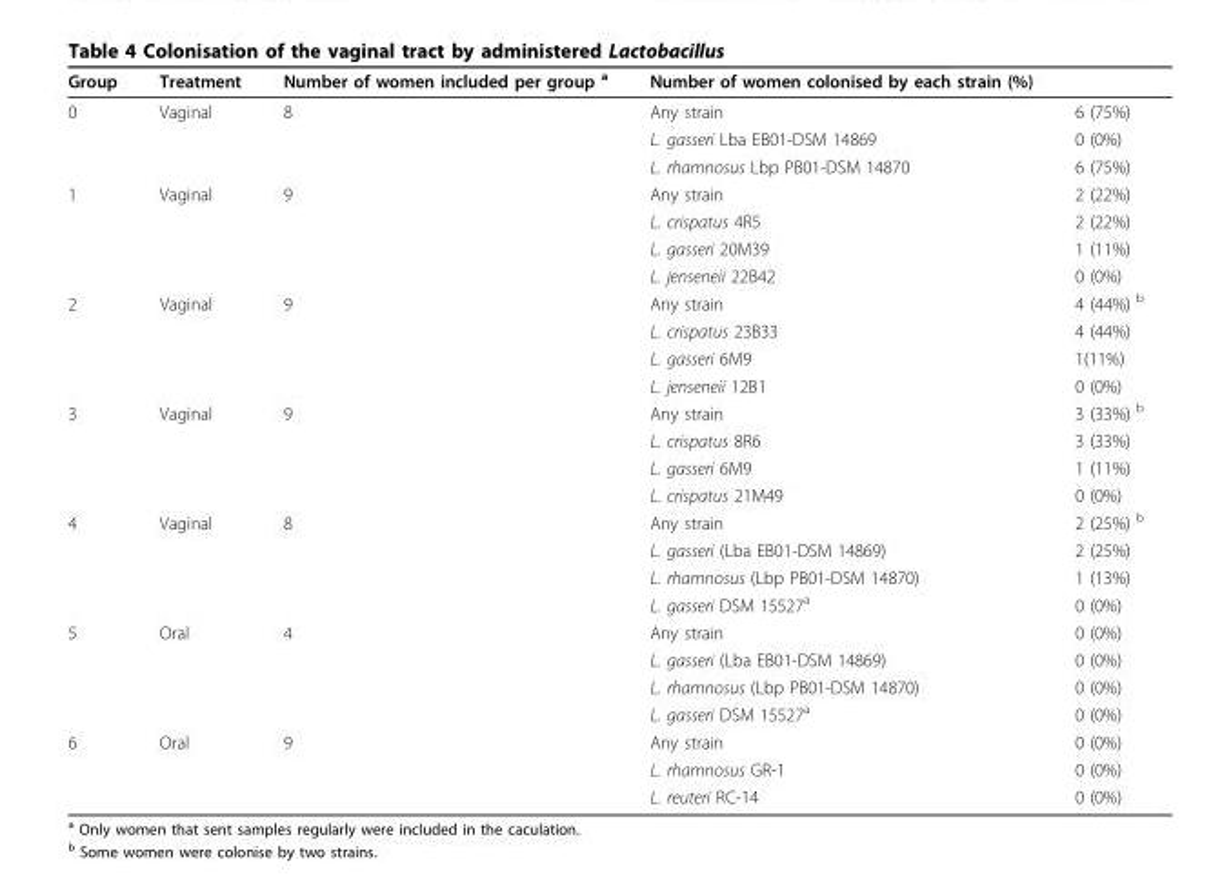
<table><thead><tr><td>Group</td><td>Treatment</td><td>Number of women included per group <sup>a</sup></td><td>Number of women colonised by each strain (%)</td><td></td></tr></thead><tbody><tr><td rowspan="3">0</td><td>Vaginal</td><td>8</td><td>Any strain</td><td>6 (75%)</td></tr><tr><td></td><td></td><td>L. gasseri Lba EB01-DSM 14869</td><td>0 (0%)</td></tr><tr><td></td><td></td><td>L. rhamnosus Lbp PB01-DSM 14870</td><td>6 (75%)</td></tr><tr><td rowspan="4">1</td><td>Vaginal</td><td>9</td><td>Any strain</td><td>2 (22%)</td></tr><tr><td></td><td></td><td>L. crispatus 4R5</td><td>2 (22%)</td></tr><tr><td></td><td></td><td>L. gasseri 20M39</td><td>1 (11%)</td></tr><tr><td></td><td></td><td>L. jenseneii 22B42</td><td>0 (0%)</td></tr><tr><td rowspan="4">2</td><td>Vaginal</td><td>9</td><td>Any strain</td><td>4 (44%) <sup>b</sup></td></tr><tr><td></td><td></td><td>L. crispatus 23B33</td><td>4 (44%)</td></tr><tr><td></td><td></td><td>L. gasseri 6M9</td><td>1(11%)</td></tr><tr><td></td><td></td><td>L. jenseneii 12B1</td><td>0 (0%)</td></tr><tr><td rowspan="4">3</td><td>Vaginal</td><td>9</td><td>Any strain</td><td>3 (33%) <sup>b</sup></td></tr><tr><td></td><td></td><td>L. crispatus 8R6</td><td>3 (33%)</td></tr><tr><td></td><td></td><td>L. gasseri 6M9</td><td>1 (11%)</td></tr><tr><td></td><td></td><td>L. crispatus 21M49</td><td>0 (0%)</td></tr><tr><td rowspan="4">4</td><td>Vaginal</td><td>8</td><td>Any strain</td><td>2 (25%) <sup>b</sup></td></tr><tr><td></td><td></td><td>L. gasseri (Lba EB01-DSM 14869)</td><td>2 (25%)</td></tr><tr><td></td><td></td><td>L. rhamnosus (Lbp PB01-DSM 14870)</td><td>1 (13%)</td></tr><tr><td></td><td></td><td>L. gasseri DSM 15527<sup>a</sup></td><td>0 (0%)</td></tr><tr><td rowspan="4">5</td><td>Oral</td><td>4</td><td>Any strain</td><td>0 (0%)</td></tr><tr><td></td><td></td><td>L. gasseri (Lba EB01-DSM 14869)</td><td>0 (0%)</td></tr><tr><td></td><td></td><td>L. rhamnosus (Lbp PB01-DSM 14870)</td><td>0 (0%)</td></tr><tr><td></td><td></td><td>L. gasseri DSM 15527<sup>a</sup></td><td>0 (0%)</td></tr><tr><td rowspan="3">6</td><td>Oral</td><td>9</td><td>Any strain</td><td>0 (0%)</td></tr><tr><td></td><td></td><td>L. rhamnosus GR-1</td><td>0 (0%)</td></tr><tr><td></td><td></td><td>L. reuteri RC-14</td><td>0 (0%)</td></tr></tbody></table>